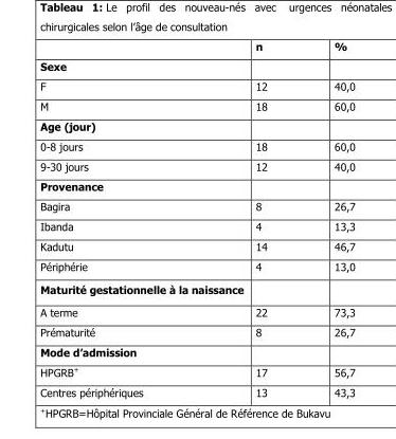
<table><thead><tr><td></td><td>n</td><td>%</td></tr></thead><tbody><tr><td colspan="3">Sexe</td></tr><tr><td>F</td><td>12</td><td>40,0</td></tr><tr><td>M</td><td>18</td><td>60,0</td></tr><tr><td colspan="3">Age (jour)</td></tr><tr><td>0-8 jours</td><td>18</td><td>60,0</td></tr><tr><td>9-30 jours</td><td>12</td><td>40,0</td></tr><tr><td colspan="3">Provenance</td></tr><tr><td>Bagira</td><td>8</td><td>26,7</td></tr><tr><td>Ibanda</td><td>4</td><td>13,3</td></tr><tr><td>Kadutu</td><td>14</td><td>46,7</td></tr><tr><td>Périphérie</td><td>4</td><td>13,0</td></tr><tr><td colspan="3">Maturité gestationnelle à la naissance</td></tr><tr><td>A terme</td><td>22</td><td>73,3</td></tr><tr><td>Prématurité</td><td>8</td><td>26,7</td></tr><tr><td colspan="3">Mode d’admission</td></tr><tr><td>HPGRB+</td><td>17</td><td>56,7</td></tr><tr><td>Centres périphériques</td><td>13</td><td>43,3</td></tr></tbody></table>